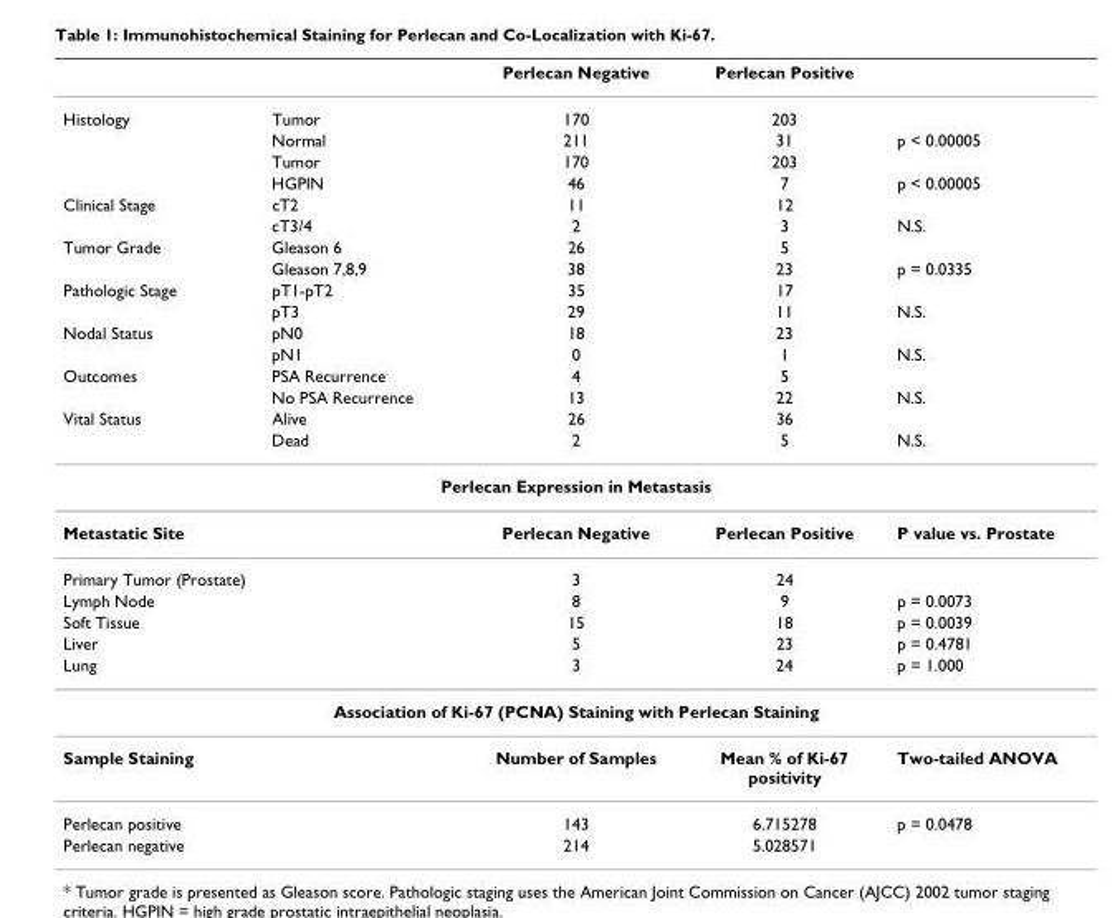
<table><thead><tr><td></td><td></td><td>Perlecan Negative</td><td>Perlecan Positive</td><td></td></tr></thead><tbody><tr><td rowspan="4">Histology</td><td>Tumor</td><td>170</td><td>203</td><td></td></tr><tr><td>Normal</td><td>211</td><td>31</td><td>p &lt; 0.00005</td></tr><tr><td>Tumor</td><td>170</td><td>203</td><td></td></tr><tr><td>HGPIN</td><td>46</td><td>7</td><td>p &lt; 0.00005</td></tr><tr><td rowspan="2">Clinical Stage</td><td>cT2</td><td>11</td><td>12</td><td></td></tr><tr><td>cT3/4</td><td>2</td><td>3</td><td>N.S.</td></tr><tr><td rowspan="2">Tumor Grade</td><td>Gleason 6</td><td>26</td><td>5</td><td></td></tr><tr><td>Gleason 7,8,9</td><td>38</td><td>23</td><td>p = 0.0335</td></tr><tr><td rowspan="2">Pathologic Stage</td><td>pT1-pT2</td><td>35</td><td>17</td><td></td></tr><tr><td>pT3</td><td>29</td><td>11</td><td>N.S.</td></tr><tr><td rowspan="2">Nodal Status</td><td>pN0</td><td>18</td><td>23</td><td></td></tr><tr><td>pN1</td><td>0</td><td>1</td><td>N.S.</td></tr><tr><td rowspan="2">Outcomes</td><td>PSA Recurrence</td><td>4</td><td>5</td><td></td></tr><tr><td>No PSA Recurrence</td><td>13</td><td>22</td><td>N.S.</td></tr><tr><td rowspan="2">Vital Status</td><td>Alive</td><td>26</td><td>36</td><td></td></tr><tr><td>Dead</td><td>2</td><td>5</td><td>N.S.</td></tr><tr><td colspan="5">Perlecan Expression in Metastasis</td></tr><tr><td>Metastatic Site</td><td></td><td>Perlecan Negative</td><td>Perlecan Positive</td><td>P value vs. Prostate</td></tr><tr><td>Primary Tumor (Prostate)</td><td></td><td>3</td><td>24</td><td></td></tr><tr><td>Lymph Node</td><td></td><td>8</td><td>9</td><td>p = 0.0073</td></tr><tr><td>Soft Tissue</td><td></td><td>15</td><td>18</td><td>p = 0.0039</td></tr><tr><td>Liver</td><td></td><td>5</td><td>23</td><td>p = 0.4781</td></tr><tr><td>Lung</td><td></td><td>3</td><td>24</td><td>p = 1.000</td></tr><tr><td colspan="5">Association of Ki-67 (PCNA) Staining with Perlecan Staining</td></tr><tr><td>Sample Staining</td><td></td><td>Number of Samples</td><td>Mean % of Ki-67 positivity</td><td>Two-tailed ANOVA</td></tr><tr><td>Perlecan positive</td><td></td><td>143</td><td>6.715278</td><td>p = 0.0478</td></tr><tr><td>Perlecan negative</td><td></td><td>214</td><td>5.028571</td><td></td></tr></tbody></table>